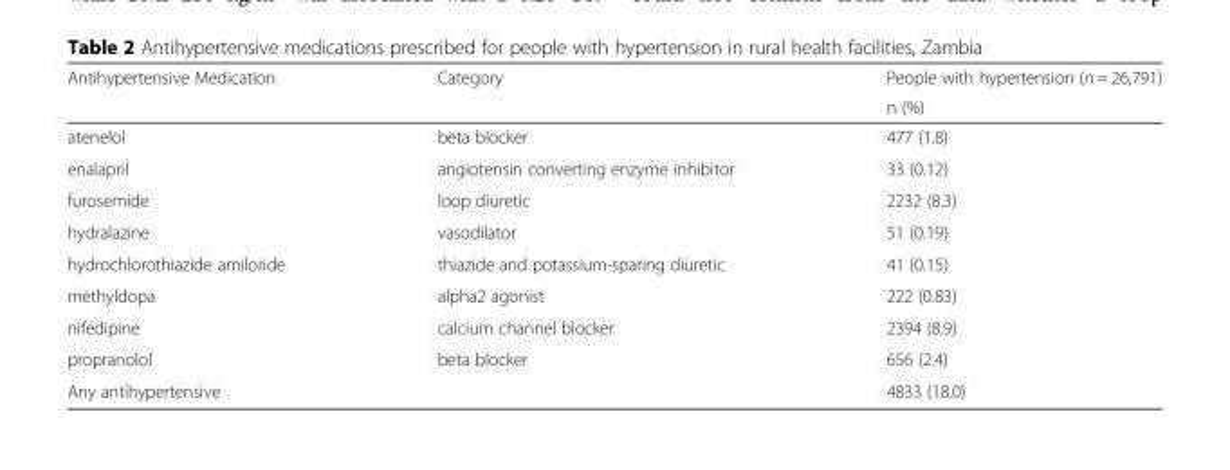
<table><thead><tr><td rowspan="2">Antihypertensive Medication</td><td rowspan="2">Category</td><td rowspan="2">People with hypertension (n = 26,791) n (%)</td></tr><tr></tr></thead><tbody><tr><td>atenelol</td><td>beta blocker</td><td>477 (1.8)</td></tr><tr><td>enalapril</td><td>angiotensin converting enzyme inhibitor</td><td>33 (0.12)</td></tr><tr><td>furosemide</td><td>loop diuretic</td><td>2232 (8.3)</td></tr><tr><td>hydralazine</td><td>vasodilator</td><td>51 (0.19)</td></tr><tr><td>hydrochlorothiazide amiloride</td><td>thiazide and potassium-sparing diuretic</td><td>41 (0.15)</td></tr><tr><td>methyldopa</td><td>alpha2 agonist</td><td>222 (0.83)</td></tr><tr><td>nifedipine</td><td>calcium channel blocker</td><td>2394 (8.9)</td></tr><tr><td>propranolol</td><td>beta blocker</td><td>656 (2.4)</td></tr><tr><td>Any antihypertensive</td><td></td><td>4833 (18.0)</td></tr></tbody></table>